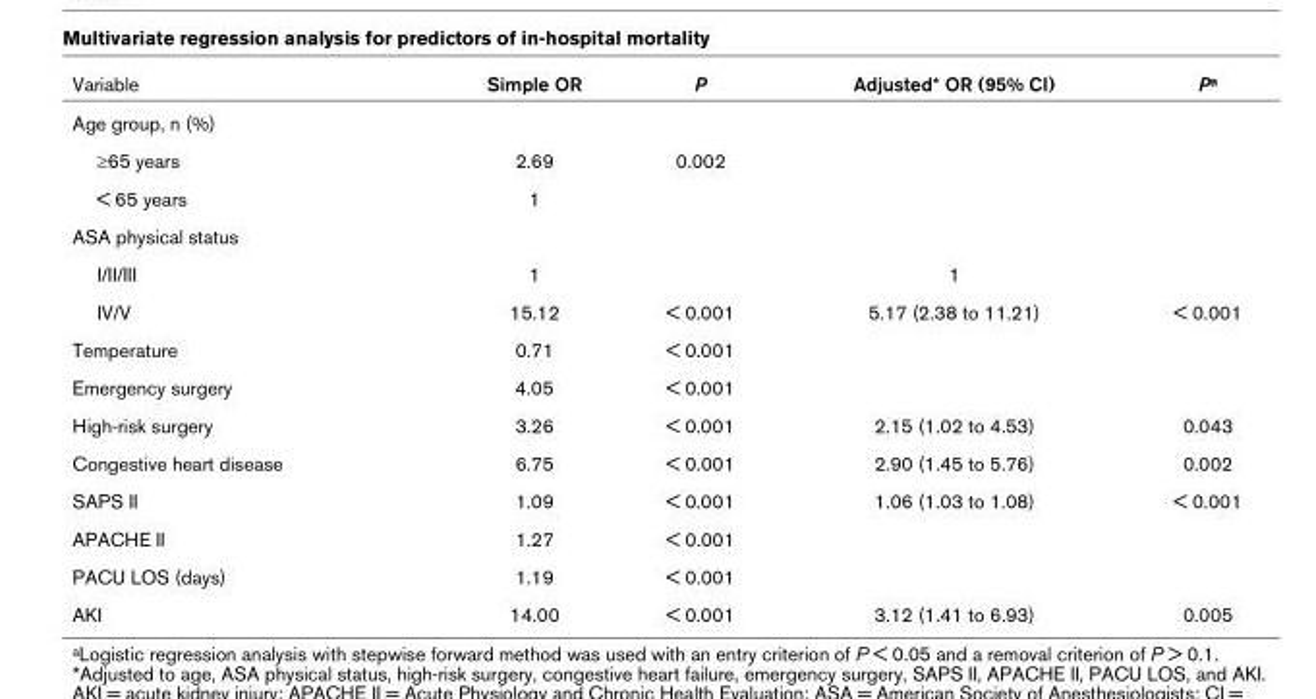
<table><thead><tr><td>Variable</td><td>Simple OR</td><td>P</td><td>Adjusted* OR (95% CI)</td><td>P<sup>a</sup></td></tr></thead><tbody><tr><td colspan="5">Age group, n (%)</td></tr><tr><td>≥65 years</td><td>2.69</td><td>0.002</td><td></td><td></td></tr><tr><td>&lt; 65 years</td><td>1</td><td></td><td></td><td></td></tr><tr><td colspan="5">ASA physical status</td></tr><tr><td>I/II/III</td><td>1</td><td></td><td>1</td><td></td></tr><tr><td>IV/V</td><td>15.12</td><td>&lt; 0.001</td><td>5.17 (2.38 to 11.21)</td><td>&lt; 0.001</td></tr><tr><td>Temperature</td><td>0.71</td><td>&lt; 0.001</td><td></td><td></td></tr><tr><td>Emergency surgery</td><td>4.05</td><td>&lt; 0.001</td><td></td><td></td></tr><tr><td>High-risk surgery</td><td>3.26</td><td>&lt; 0.001</td><td>2.15 (1.02 to 4.53)</td><td>0.043</td></tr><tr><td>Congestive heart disease</td><td>6.75</td><td>&lt; 0.001</td><td>2.90 (1.45 to 5.76)</td><td>0.002</td></tr><tr><td>SAPS II</td><td>1.09</td><td>&lt; 0.001</td><td>1.06 (1.03 to 1.08)</td><td>&lt; 0.001</td></tr><tr><td>APACHE II</td><td>1.27</td><td>&lt; 0.001</td><td></td><td></td></tr><tr><td>PACU LOS (days)</td><td>1.19</td><td>&lt; 0.001</td><td></td><td></td></tr><tr><td>AKI</td><td>14.00</td><td>&lt; 0.001</td><td>3.12 (1.41 to 6.93)</td><td>0.005</td></tr></tbody></table>